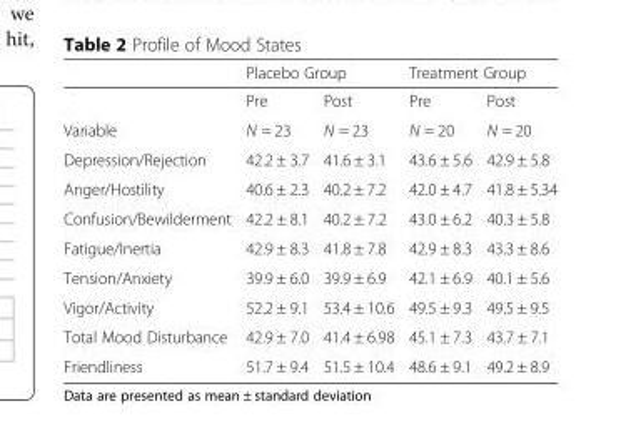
<table><thead><tr><td rowspan="2"></td><td colspan="2">Placebo Group</td><td colspan="2">Treatment Group</td></tr><tr><td>Pre</td><td>Post</td><td>Pre</td><td>Post</td></tr></thead><tbody><tr><td>Variable</td><td>N = 23</td><td>N = 23</td><td>N = 20</td><td>N = 20</td></tr><tr><td>Depression/Rejection</td><td>42.2 ± 3.7</td><td>41.6 ± 3.1</td><td>43.6 ± 5.6</td><td>42.9 ± 5.8</td></tr><tr><td>Anger/Hostility</td><td>40.6 ± 2.3</td><td>40.2 ± 7.2</td><td>42.0 ± 4.7</td><td>41.8 ± 5.34</td></tr><tr><td>Confusion/Bewilderment</td><td>42.2 ± 8.1</td><td>40.2 ± 7.2</td><td>43.0 ± 6.2</td><td>40.3 ± 5.8</td></tr><tr><td>Fatigue/Inertia</td><td>42.9 ± 8.3</td><td>41.8 ± 7.8</td><td>42.9 ± 8.3</td><td>43.3 ± 8.6</td></tr><tr><td>Tension/Anxiety</td><td>39.9 ± 6.0</td><td>39.9 ± 6.9</td><td>42.1 ± 6.9</td><td>40.1 ± 5.6</td></tr><tr><td>Vigor/Activity</td><td>52.2 ± 9.1</td><td>53.4 ± 10.6</td><td>49.5 ± 9.3</td><td>49.5 ± 9.5</td></tr><tr><td>Total Mood Disturbance</td><td>42.9 ± 7.0</td><td>41.4 ± 6.98</td><td>45.1 ± 7.3</td><td>43.7 ± 7.1</td></tr><tr><td>Friendliness</td><td>51.7 ± 9.4</td><td>51.5 ± 10.4</td><td>48.6 ± 9.1</td><td>49.2 ± 8.9</td></tr></tbody></table>